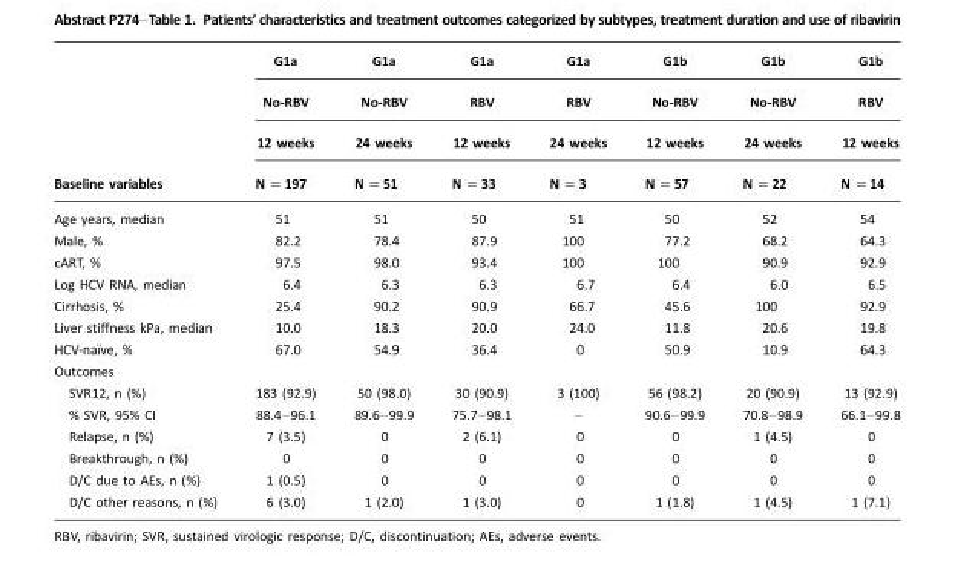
<table><thead><tr><td rowspan="4">Baseline variables</td><td rowspan="4">G1a No-RBV 12 weeks N =197</td><td rowspan="4">G1a No-RBV 24 weeks N =51</td><td rowspan="4">G1a RBV 12 weeks N =33</td><td rowspan="4">G1a RBV 24 weeks N =3</td><td rowspan="4">G1b No-RBV 12 weeks N =57</td><td rowspan="4">G1b No-RBV 24 weeks N =22</td><td rowspan="4">G1b RBV 12 weeks N =14</td></tr><tr></tr><tr></tr><tr></tr></thead><tbody><tr><td>Age years, median</td><td>51</td><td>51</td><td>50</td><td>51</td><td>50</td><td>52</td><td>54</td></tr><tr><td>Male, %</td><td>82.2</td><td>78.4</td><td>87.9</td><td>100</td><td>77.2</td><td>68.2</td><td>64.3</td></tr><tr><td>cART, %</td><td>97.5</td><td>98.0</td><td>93.4</td><td>100</td><td>100</td><td>90.9</td><td>92.9</td></tr><tr><td>Log HCV RNA, median</td><td>6.4</td><td>6.3</td><td>6.3</td><td>6.7</td><td>6.4</td><td>6.0</td><td>6.5</td></tr><tr><td>Cirrhosis, %</td><td>25.4</td><td>90.2</td><td>90.9</td><td>66.7</td><td>45.6</td><td>100</td><td>92.9</td></tr><tr><td>Liver stiffness kPa, median</td><td>10.0</td><td>18.3</td><td>20.0</td><td>24.0</td><td>11.8</td><td>20.6</td><td>19.8</td></tr><tr><td>HCV-naı¨ve, %</td><td>67.0</td><td>54.9</td><td>36.4</td><td>0</td><td>50.9</td><td>10.9</td><td>64.3</td></tr><tr><td colspan="8">Outcomes</td></tr><tr><td>SVR12, n (%)</td><td>183 (92.9)</td><td>50 (98.0)</td><td>30 (90.9)</td><td>3 (100)</td><td>56 (98.2)</td><td>20 (90.9)</td><td>13 (92.9)</td></tr><tr><td>% SVR, 95% CI</td><td>88.4–96.1</td><td>89.6–99.9</td><td>75.7–98.1</td><td>–</td><td>90.6–99.9</td><td>70.8–98.9</td><td>66.1–99.8</td></tr><tr><td>Relapse, n (%)</td><td>7 (3.5)</td><td>0</td><td>2 (6.1)</td><td>0</td><td>0</td><td>1 (4.5)</td><td>0</td></tr><tr><td>Breakthrough, n (%)</td><td>0</td><td>0</td><td>0</td><td>0</td><td>0</td><td>0</td><td>0</td></tr><tr><td>D/C due to AEs, n (%)</td><td>1 (0.5)</td><td>0</td><td>0</td><td>0</td><td>0</td><td>0</td><td>0</td></tr><tr><td>D/C other reasons, n (%)</td><td>6 (3.0)</td><td>1 (2.0)</td><td>1 (3.0)</td><td>0</td><td>1 (1.8)</td><td>1 (4.5)</td><td>1 (7.1)</td></tr></tbody></table>